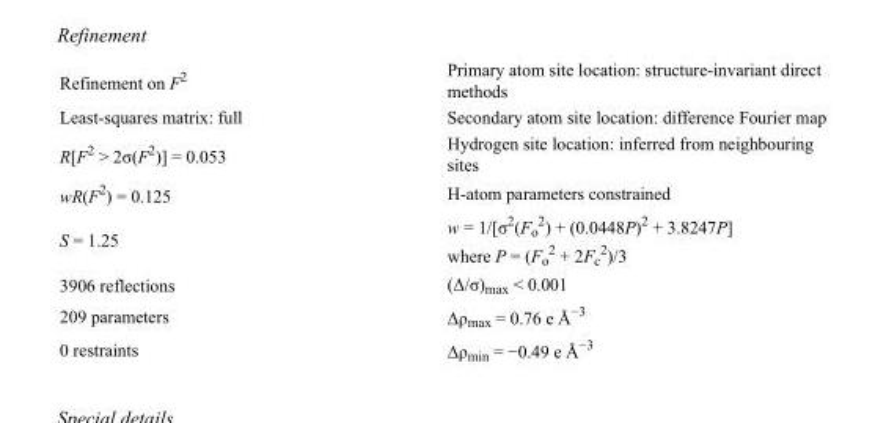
<table><tbody><tr><td>Refinement on F<sup>2</sup></td><td>Primary atom site location: structure-invariant direct methods</td></tr><tr><td>Least-squares matrix: full</td><td>Secondary atom site location: difference Fourier map</td></tr><tr><td>R[F<sup>2</sup> &gt; 2σ(F<sup>2</sup>)] = 0.053</td><td>Hydrogen site location: inferred from neighbouring sites</td></tr><tr><td>wR(F<sup>2</sup>) = 0.125</td><td>H-atom parameters constrained</td></tr><tr><td>S = 1.25</td><td>w = 1/[σ<sup>2</sup>(F<sub>o</sub> <sup>2</sup>) + (0.0448P)<sup>2</sup> + 3.8247P] where P = (F<sub>o</sub> <sup>2</sup> + 2F<sub>c</sub> <sup>2</sup>)/3</td></tr><tr><td>3906 reflections</td><td>(Δ/σ)<sub>max</sub> &lt; 0.001</td></tr><tr><td>209 parameters</td><td>Δρ<sub>max</sub> = 0.76 e Å<sup>−3</sup></td></tr><tr><td>0 restraints</td><td>Δρ<sub>min</sub> = −0.49 e Å<sup>−3</sup></td></tr></tbody></table>